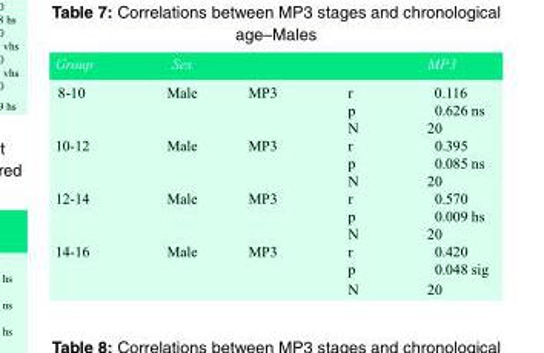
<table><tbody><tr><td>Group</td><td>Sex</td><td></td><td></td><td>MP3</td></tr><tr><td rowspan="3">8-10</td><td>Male</td><td>MP3</td><td>r</td><td>0.116</td></tr><tr><td></td><td></td><td>p</td><td>0.626 ns</td></tr><tr><td></td><td></td><td>N</td><td>20</td></tr><tr><td rowspan="3">10-12</td><td>Male</td><td>MP3</td><td>r</td><td>0.395</td></tr><tr><td></td><td></td><td>p</td><td>0.085 ns</td></tr><tr><td></td><td></td><td>N</td><td>20</td></tr><tr><td rowspan="3">12-14</td><td>Male</td><td>MP3</td><td>r</td><td>0.570</td></tr><tr><td></td><td></td><td>p</td><td>0.009 hs</td></tr><tr><td></td><td></td><td>N</td><td>20</td></tr><tr><td rowspan="3">14-16</td><td>Male</td><td>MP3</td><td>r</td><td>0.420</td></tr><tr><td></td><td></td><td>p</td><td>0.048 sig</td></tr><tr><td></td><td></td><td>N</td><td>20</td></tr></tbody></table>